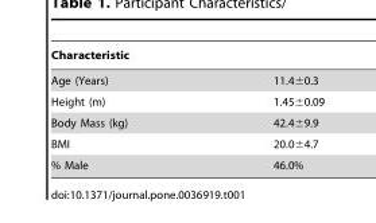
<table><thead><tr><td>Characteristic</td><td></td></tr></thead><tbody><tr><td>Age (Years)</td><td>11.4±0.3</td></tr><tr><td>Height (m)</td><td>1.45±0.09</td></tr><tr><td>Body Mass (kg)</td><td>42.4±9.9</td></tr><tr><td>BMI</td><td>20.0±4.7</td></tr><tr><td>% Male</td><td>46.0%</td></tr></tbody></table>